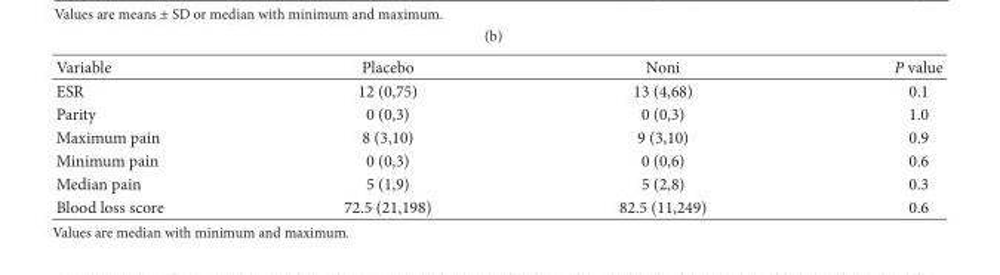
<table><thead><tr><td>Variable</td><td>Placebo</td><td>Noni</td><td>P value</td></tr></thead><tbody><tr><td>ESR</td><td>12 (0,75)</td><td>13 (4,68)</td><td>0.1</td></tr><tr><td>Parity</td><td>0 (0,3)</td><td>0 (0,3)</td><td>1.0</td></tr><tr><td>Maximum pain</td><td>8 (3,10)</td><td>9 (3,10)</td><td>0.9</td></tr><tr><td>Minimum pain</td><td>0 (0,3)</td><td>0 (0,6)</td><td>0.6</td></tr><tr><td>Median pain</td><td>5 (1,9)</td><td>5 (2,8)</td><td>0.3</td></tr><tr><td>Blood loss score</td><td>72.5 (21,198)</td><td>82.5 (11,249)</td><td>0.6</td></tr></tbody></table>